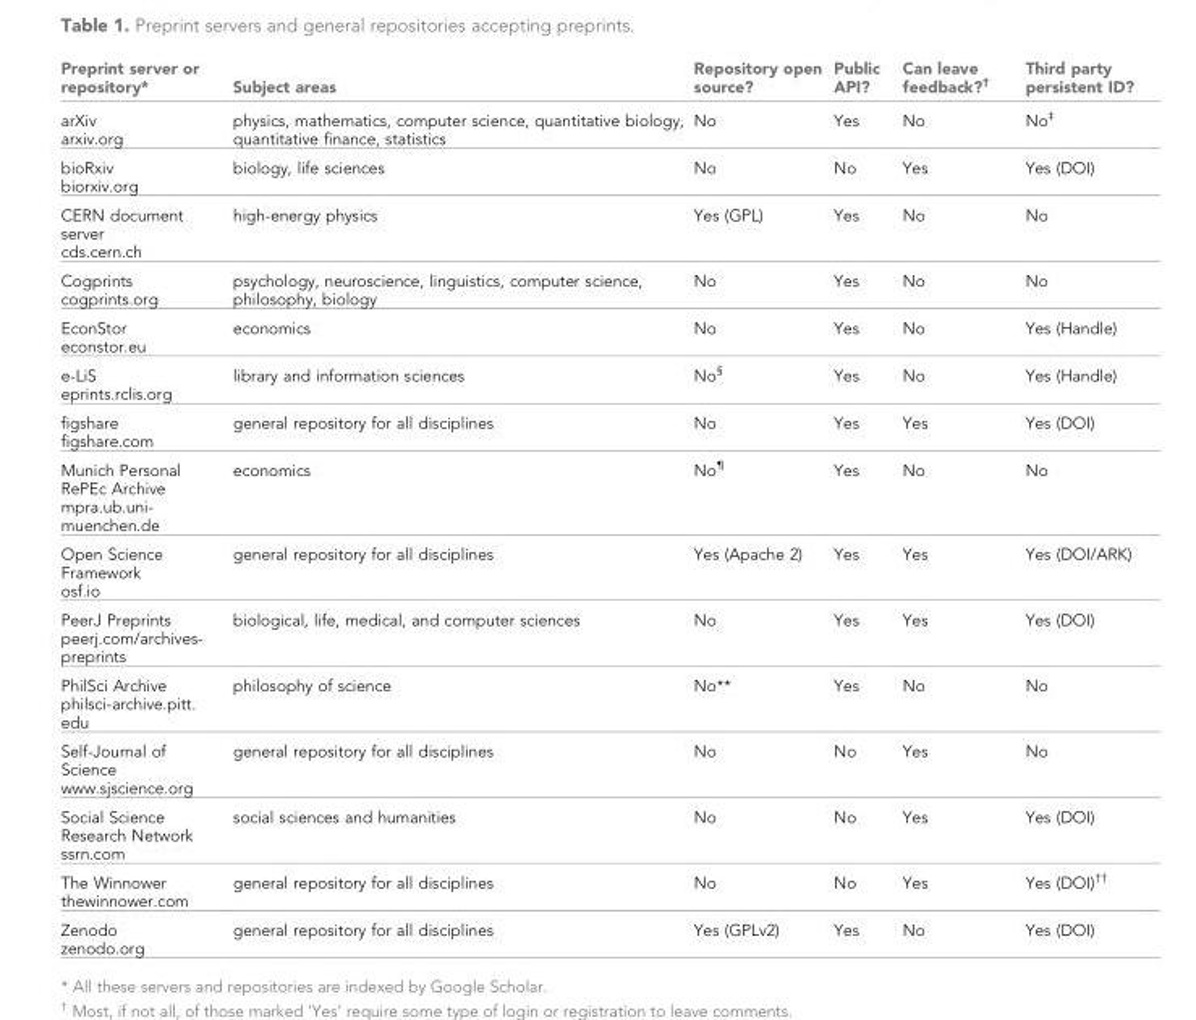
<table><thead><tr><td>Preprint server or repository*</td><td>Subject areas</td><td>Repository open source?</td><td>Public API?</td><td>Can leave feedback?<sup>†</sup></td><td>Third party persistent ID?</td></tr></thead><tbody><tr><td>arXiv arxiv.org</td><td>physics, mathematics, computer science, quantitative biology, quantitative finance, statistics</td><td>No</td><td>Yes</td><td>No</td><td>No<sup>‡</sup></td></tr><tr><td>bioRxiv biorxiv.org</td><td>biology, life sciences</td><td>No</td><td>No</td><td>Yes</td><td>Yes (DOI)</td></tr><tr><td>CERN document server cds.cern.ch</td><td>high-energy physics</td><td>Yes (GPL)</td><td>Yes</td><td>No</td><td>No</td></tr><tr><td>Cogprints cogprints.org</td><td>psychology, neuroscience, linguistics, computer science, philosophy, biology</td><td>No</td><td>Yes</td><td>No</td><td>No</td></tr><tr><td>EconStor econstor.eu</td><td>economics</td><td>No</td><td>Yes</td><td>No</td><td>Yes (Handle)</td></tr><tr><td>e-LiS eprints.rclis.org</td><td>library and information sciences</td><td>No<sup>§</sup></td><td>Yes</td><td>No</td><td>Yes (Handle)</td></tr><tr><td>figshare figshare.com</td><td>general repository for all disciplines</td><td>No</td><td>Yes</td><td>Yes</td><td>Yes (DOI)</td></tr><tr><td>Munich Personal RePEc Archive mpra.ub.uni- muenchen.de</td><td>economics</td><td>No<sup>¶</sup></td><td>Yes</td><td>No</td><td>No</td></tr><tr><td>Open Science Framework osf.io</td><td>general repository for all disciplines</td><td>Yes (Apache 2)</td><td>Yes</td><td>Yes</td><td>Yes (DOI/ARK)</td></tr><tr><td>PeerJ Preprints peerj.com/archives- preprints</td><td>biological, life, medical, and computer sciences</td><td>No</td><td>Yes</td><td>Yes</td><td>Yes (DOI)</td></tr><tr><td>PhilSci Archive philsci-archive.pitt. edu</td><td>philosophy of science</td><td>No**</td><td>Yes</td><td>No</td><td>No</td></tr><tr><td>Self-Journal of Science www.sjscience.org</td><td>general repository for all disciplines</td><td>No</td><td>No</td><td>Yes</td><td>No</td></tr><tr><td>Social Science Research Network ssrn.com</td><td>social sciences and humanities</td><td>No</td><td>No</td><td>Yes</td><td>Yes (DOI)</td></tr><tr><td>The Winnower thewinnower.com</td><td>general repository for all disciplines</td><td>No</td><td>No</td><td>Yes</td><td>Yes (DOI)<sup>††</sup></td></tr><tr><td>Zenodo zenodo.org</td><td>general repository for all disciplines</td><td>Yes (GPLv2)</td><td>Yes</td><td>No</td><td>Yes (DOI)</td></tr></tbody></table>